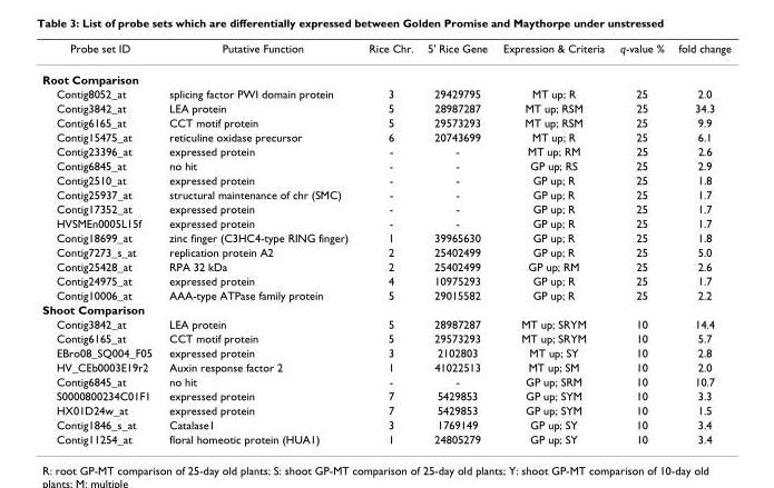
<table><thead><tr><td>Probe set ID</td><td>Putative Function</td><td>Rice Chr.</td><td>5&#x27; Rice Gene</td><td>Expression &amp; Criteria</td><td>q-value %</td><td>fold change</td></tr></thead><tbody><tr><td colspan="7">Root Comparison</td></tr><tr><td>Contig8052_at</td><td>splicing factor PWI domain protein</td><td>3</td><td>29429795</td><td>MT up; R</td><td>25</td><td>2.0</td></tr><tr><td>Contig3842_at</td><td>LEA protein</td><td>5</td><td>28987287</td><td>MT up; RSM</td><td>25</td><td>34.3</td></tr><tr><td>Contig6165_at</td><td>CCT motif protein</td><td>5</td><td>29573293</td><td>MT up; RSM</td><td>25</td><td>9.9</td></tr><tr><td>Contig15475_at</td><td>reticuline oxidase precursor</td><td>6</td><td>20743699</td><td>MT up; R</td><td>25</td><td>6.1</td></tr><tr><td>Contig23396_at</td><td>expressed protein</td><td>-</td><td>-</td><td>MT up; RM</td><td>25</td><td>2.6</td></tr><tr><td>Contig6845_at</td><td>no hit</td><td>-</td><td>-</td><td>GP up; RS</td><td>25</td><td>2.9</td></tr><tr><td>Contig2510_at</td><td>expressed protein</td><td>-</td><td>-</td><td>GP up; R</td><td>25</td><td>1.8</td></tr><tr><td>Contig25937_at</td><td>structural maintenance of chr (SMC)</td><td>-</td><td>-</td><td>GP up; R</td><td>25</td><td>1.7</td></tr><tr><td>Contig17352_at</td><td>expressed protein</td><td>-</td><td>-</td><td>GP up; R</td><td>25</td><td>1.7</td></tr><tr><td>HVSMEn0005L15f</td><td>expressed protein</td><td>-</td><td>-</td><td>GP up; R</td><td>25</td><td>1.7</td></tr><tr><td>Contig18699_at</td><td>zinc finger (C3HC4-type RING finger)</td><td>1</td><td>39965630</td><td>GP up; R</td><td>25</td><td>1.8</td></tr><tr><td>Contig7273_s_at</td><td>replication protein A2</td><td>2</td><td>25402499</td><td>GP up; R</td><td>25</td><td>5.0</td></tr><tr><td>Contig25428_at</td><td>RPA 32 kDa</td><td>2</td><td>25402499</td><td>GP up; RM</td><td>25</td><td>2.6</td></tr><tr><td>Contig24975_at</td><td>expressed protein</td><td>4</td><td>10975293</td><td>GP up; R</td><td>25</td><td>1.7</td></tr><tr><td>Contig10006_at</td><td>AAA-type ATPase family protein</td><td>5</td><td>29015582</td><td>GP up; R</td><td>25</td><td>2.2</td></tr><tr><td colspan="7">Shoot Comparison</td></tr><tr><td>Contig3842_at</td><td>LEA protein</td><td>5</td><td>28987287</td><td>MT up; SRYM</td><td>10</td><td>14.4</td></tr><tr><td>Contig6165_at</td><td>CCT motif protein</td><td>5</td><td>29573293</td><td>MT up; SRYM</td><td>10</td><td>5.7</td></tr><tr><td>EBro08_SQ004_F05</td><td>expressed protein</td><td>3</td><td>2102803</td><td>MT up; SY</td><td>10</td><td>2.8</td></tr><tr><td>HV_CEb0003E19r2</td><td>Auxin response factor 2</td><td>1</td><td>41022513</td><td>MT up; SM</td><td>10</td><td>2.0</td></tr><tr><td>Contig6845_at</td><td>no hit</td><td>-</td><td>-</td><td>GP up; SRM</td><td>10</td><td>10.7</td></tr><tr><td>S0000800234C01F1</td><td>expressed protein</td><td>7</td><td>5429853</td><td>GP up; SYM</td><td>10</td><td>3.3</td></tr><tr><td>HX01D24w_at</td><td>expressed protein</td><td>7</td><td>5429853</td><td>GP up; SYM</td><td>10</td><td>1.5</td></tr><tr><td>Contig1846_s_at</td><td>Catalase1</td><td>3</td><td>1769149</td><td>GP up; SY</td><td>10</td><td>3.4</td></tr><tr><td>Contig11254_at</td><td>floral homeotic protein (HUA1)</td><td>1</td><td>24805279</td><td>GP up; SY</td><td>10</td><td>3.4</td></tr></tbody></table>